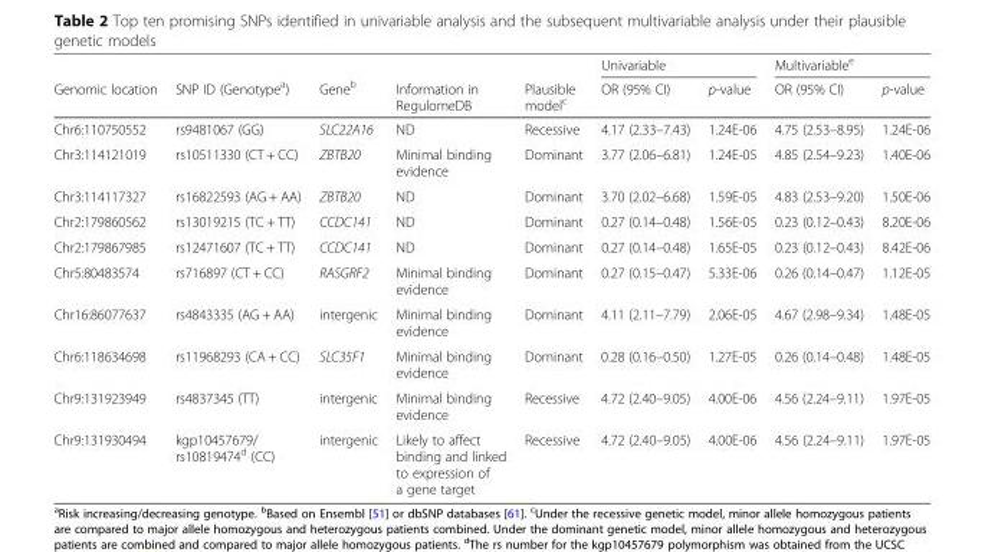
<table><thead><tr><td rowspan="2">Genomic location</td><td rowspan="2">SNP ID (Genotype<sup>a</sup>)</td><td rowspan="2">Gene<sup>b</sup></td><td rowspan="2">Information in RegulomeDB</td><td rowspan="2">Plausible model<sup>c</sup></td><td colspan="2">Univariable</td><td colspan="2">Multivariable<sup>e</sup></td></tr><tr><td>OR (95% CI)</td><td>p-value</td><td>OR (95% CI)</td><td>p-value</td></tr></thead><tbody><tr><td>Chr6:110750552</td><td>rs9481067 (GG)</td><td>SLC22A16</td><td>ND</td><td>Recessive</td><td>4.17 (2.33–7.43)</td><td>1.24E-06</td><td>4.75 (2.53–8.95)</td><td>1.24E-06</td></tr><tr><td>Chr3:114121019</td><td>rs10511330 (CT + CC)</td><td>ZBTB20</td><td>Minimal binding evidence</td><td>Dominant</td><td>3.77 (2.06–6.81)</td><td>1.24E-05</td><td>4.85 (2.54–9.23)</td><td>1.40E-06</td></tr><tr><td>Chr3:114117327</td><td>rs16822593 (AG + AA)</td><td>ZBTB20</td><td>ND</td><td>Dominant</td><td>3.70 (2.02–6.68)</td><td>1.59E-05</td><td>4.83 (2.53–9.20)</td><td>1.50E-06</td></tr><tr><td>Chr2:179860562</td><td>rs13019215 (TC + TT)</td><td>CCDC141</td><td>ND</td><td>Dominant</td><td>0.27 (0.14–0.48)</td><td>1.56E-05</td><td>0.23 (0.12–0.43)</td><td>8.20E-06</td></tr><tr><td>Chr2:179867985</td><td>rs12471607 (TC + TT)</td><td>CCDC141</td><td>ND</td><td>Dominant</td><td>0.27 (0.14–0.48)</td><td>1.65E-05</td><td>0.23 (0.12–0.43)</td><td>8.42E-06</td></tr><tr><td>Chr5:80483574</td><td>rs716897 (CT + CC)</td><td>RASGRF2</td><td>Minimal binding evidence</td><td>Dominant</td><td>0.27 (0.15–0.47)</td><td>5.33E-06</td><td>0.26 (0.14–0.47)</td><td>1.12E-05</td></tr><tr><td>Chr16:86077637</td><td>rs4843335 (AG + AA)</td><td>intergenic</td><td>Minimal binding evidence</td><td>Dominant</td><td>4.11 (2.11–7.79)</td><td>2.06E-05</td><td>4.67 (2.98–9.34)</td><td>1.48E-05</td></tr><tr><td>Chr6:118634698</td><td>rs11968293 (CA + CC)</td><td>SLC35F1</td><td>Minimal binding evidence</td><td>Dominant</td><td>0.28 (0.16–0.50)</td><td>1.27E-05</td><td>0.26 (0.14–0.48)</td><td>1.48E-05</td></tr><tr><td>Chr9:131923949</td><td>rs4837345 (TT)</td><td>intergenic</td><td>Minimal binding evidence</td><td>Recessive</td><td>4.72 (2.40–9.05)</td><td>4.00E-06</td><td>4.56 (2.24–9.11)</td><td>1.97E-05</td></tr><tr><td>Chr9:131930494</td><td>kgp10457679/ rs10819474<sup>d</sup> (CC)</td><td>intergenic</td><td>Likely to affect binding and linked to expression of a gene target</td><td>Recessive</td><td>4.72 (2.40–9.05)</td><td>4.00E-06</td><td>4.56 (2.24–9.11)</td><td>1.97E-05</td></tr></tbody></table>